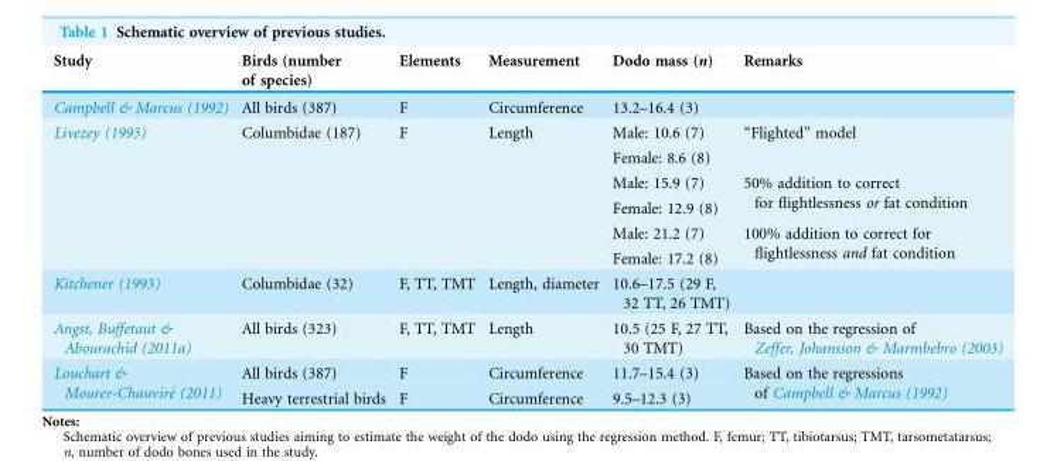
<table><thead><tr><td>Study</td><td>Birds (number of species)</td><td>Elements</td><td>Measurement</td><td>Dodo mass (n)</td><td>Remarks</td></tr></thead><tbody><tr><td>Campbell &amp; Marcus (1992)</td><td>All birds (387)</td><td>F</td><td>Circumference</td><td>13.2–16.4 (3)</td><td></td></tr><tr><td rowspan="6">Livezey (1993)</td><td rowspan="6">Columbidae (187)</td><td rowspan="6">F</td><td rowspan="6">Length</td><td>Male: 10.6 (7)</td><td rowspan="2">“Flighted” model</td></tr><tr><td>Female: 8.6 (8)</td></tr><tr><td>Male: 15.9 (7)</td><td rowspan="2">50% addition to correct for flightlessness or fat condition</td></tr><tr><td>Female: 12.9 (8)</td></tr><tr><td>Male: 21.2 (7)</td><td rowspan="2">100% addition to correct for flightlessness and fat condition</td></tr><tr><td>Female: 17.2 (8)</td></tr><tr><td>Kitchener (1993)</td><td>Columbidae (32)</td><td>F, TT, TMT</td><td>Length, diameter</td><td>10.6–17.5 (29 F, 32 TT, 26 TMT)</td><td></td></tr><tr><td>Angst, Buffetaut &amp; Abourachid (2011a)</td><td>All birds (323)</td><td>F, TT, TMT</td><td>Length</td><td>10.5 (25 F, 27 TT, 30 TMT)</td><td>Based on the regression of Zeffer, Johansson &amp; Marmbebro (2003)</td></tr><tr><td rowspan="2">Louchart &amp; Mourer-Chauvire´ (2011)</td><td>All birds (387)</td><td>F</td><td>Circumference</td><td>11.7–15.4 (3)</td><td rowspan="2">Based on the regressions of Campbell &amp; Marcus (1992)</td></tr><tr><td>Heavy terrestrial birds</td><td>F</td><td>Circumference</td><td>9.5–12.3 (3)</td></tr></tbody></table>